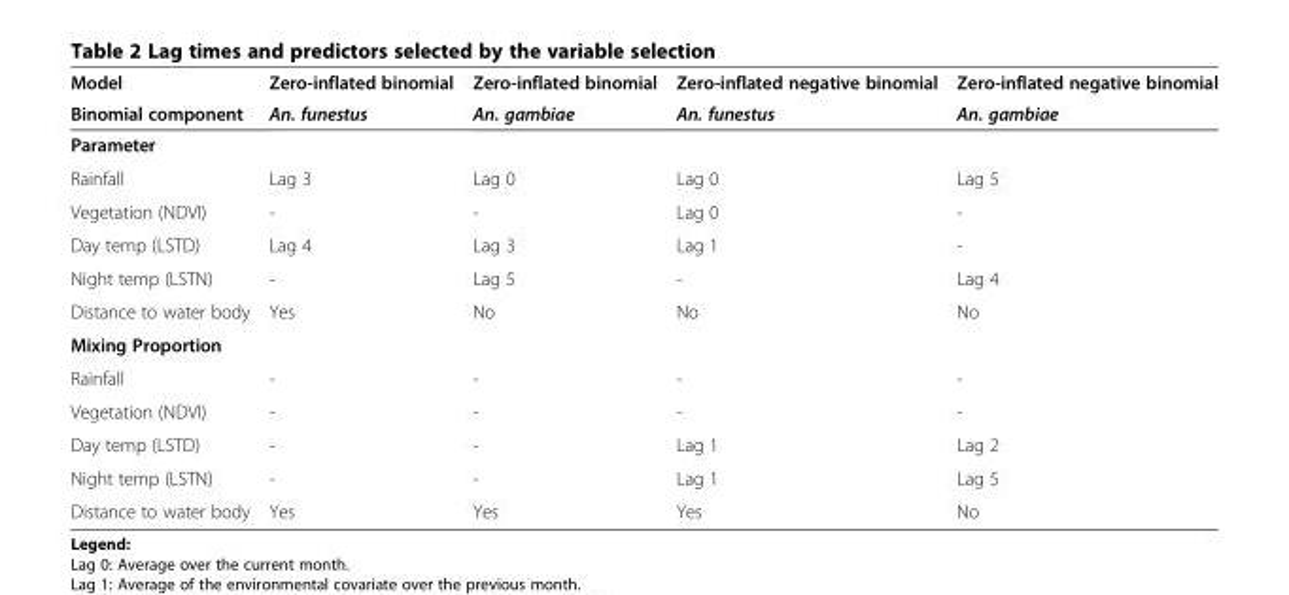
<table><thead><tr><td rowspan="2">Model Binomial component</td><td rowspan="2">Zero-inflated binomial An. funestus</td><td rowspan="2">Zero-inflated binomial An. gambiae</td><td rowspan="2">Zero-inflated negative binomial An. funestus</td><td rowspan="2">Zero-inflated negative binomial An. gambiae</td></tr><tr></tr></thead><tbody><tr><td colspan="5">Parameter</td></tr><tr><td>Rainfall</td><td>Lag 3</td><td>Lag 0</td><td>Lag 0</td><td>Lag 5</td></tr><tr><td>Vegetation (NDVI)</td><td>-</td><td>-</td><td>Lag 0</td><td>-</td></tr><tr><td>Day temp (LSTD)</td><td>Lag 4</td><td>Lag 3</td><td>Lag 1</td><td>-</td></tr><tr><td>Night temp (LSTN)</td><td>-</td><td>Lag 5</td><td>-</td><td>Lag 4</td></tr><tr><td>Distance to water body</td><td>Yes</td><td>No</td><td>No</td><td>No</td></tr><tr><td colspan="5">Mixing Proportion</td></tr><tr><td>Rainfall</td><td>-</td><td>-</td><td>-</td><td>-</td></tr><tr><td>Vegetation (NDVI)</td><td>-</td><td>-</td><td>-</td><td>-</td></tr><tr><td>Day temp (LSTD)</td><td>-</td><td>-</td><td>Lag 1</td><td>Lag 2</td></tr><tr><td>Night temp (LSTN)</td><td>-</td><td>-</td><td>Lag 1</td><td>Lag 5</td></tr><tr><td>Distance to water body</td><td>Yes</td><td>Yes</td><td>Yes</td><td>No</td></tr></tbody></table>